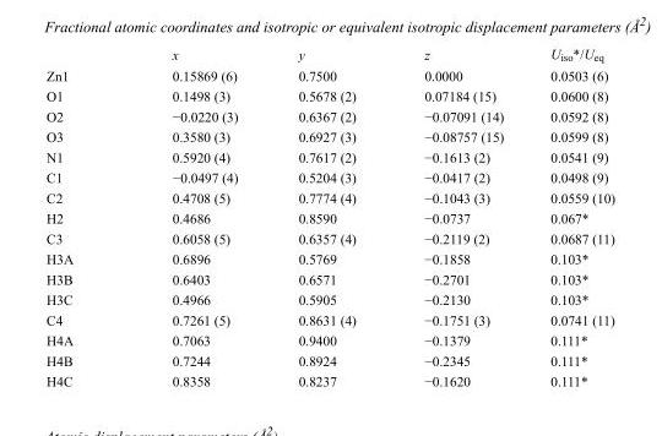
<table><thead><tr><td></td><td>x</td><td>y</td><td>z</td><td>U<sub>iso</sub>*/U<sub>eq</sub></td></tr></thead><tbody><tr><td>Zn1</td><td>0.15869 (6)</td><td>0.7500</td><td>0.0000</td><td>0.0503 (6)</td></tr><tr><td>O1</td><td>0.1498 (3)</td><td>0.5678 (2)</td><td>0.07184 (15)</td><td>0.0600 (8)</td></tr><tr><td>O2</td><td>−0.0220 (3)</td><td>0.6367 (2)</td><td>−0.07091 (14)</td><td>0.0592 (8)</td></tr><tr><td>O3</td><td>0.3580 (3)</td><td>0.6927 (3)</td><td>−0.08757 (15)</td><td>0.0599 (8)</td></tr><tr><td>N1</td><td>0.5920 (4)</td><td>0.7617 (2)</td><td>−0.1613 (2)</td><td>0.0541 (9)</td></tr><tr><td>C1</td><td>−0.0497 (4)</td><td>0.5204 (3)</td><td>−0.0417 (2)</td><td>0.0498 (9)</td></tr><tr><td>C2</td><td>0.4708 (5)</td><td>0.7774 (4)</td><td>−0.1043 (3)</td><td>0.0559 (10)</td></tr><tr><td>H2</td><td>0.4686</td><td>0.8590</td><td>−0.0737</td><td>0.067*</td></tr><tr><td>C3</td><td>0.6058 (5)</td><td>0.6357 (4)</td><td>−0.2119 (2)</td><td>0.0687 (11)</td></tr><tr><td>H3A</td><td>0.6896</td><td>0.5769</td><td>−0.1858</td><td>0.103*</td></tr><tr><td>H3B</td><td>0.6403</td><td>0.6571</td><td>−0.2701</td><td>0.103*</td></tr><tr><td>H3C</td><td>0.4966</td><td>0.5905</td><td>−0.2130</td><td>0.103*</td></tr><tr><td>C4</td><td>0.7261 (5)</td><td>0.8631 (4)</td><td>−0.1751 (3)</td><td>0.0741 (11)</td></tr><tr><td>H4A</td><td>0.7063</td><td>0.9400</td><td>−0.1379</td><td>0.111*</td></tr><tr><td>H4B</td><td>0.7244</td><td>0.8924</td><td>−0.2345</td><td>0.111*</td></tr><tr><td>H4C</td><td>0.8358</td><td>0.8237</td><td>−0.1620</td><td>0.111*</td></tr></tbody></table>